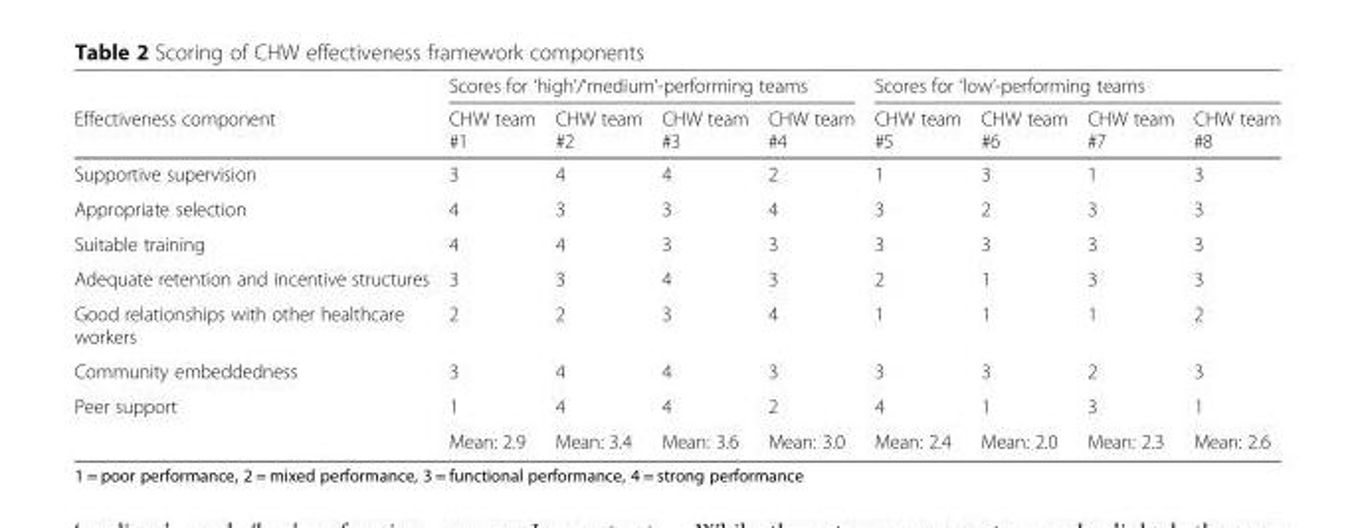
<table><thead><tr><td rowspan="2">Effectiveness component</td><td colspan="4">Scores for ‘high’/‘medium’-performing teams</td><td colspan="4">Scores for ‘low’-performing teams</td></tr><tr><td>CHW team #1</td><td>CHW team #2</td><td>CHW team #3</td><td>CHW team #4</td><td>CHW team #5</td><td>CHW team #6</td><td>CHW team #7</td><td>CHW team #8</td></tr></thead><tbody><tr><td>Supportive supervision</td><td>3</td><td>4</td><td>4</td><td>2</td><td>1</td><td>3</td><td>1</td><td>3</td></tr><tr><td>Appropriate selection</td><td>4</td><td>3</td><td>3</td><td>4</td><td>3</td><td>2</td><td>3</td><td>3</td></tr><tr><td>Suitable training</td><td>4</td><td>4</td><td>3</td><td>3</td><td>3</td><td>3</td><td>3</td><td>3</td></tr><tr><td>Adequate retention and incentive structures</td><td>3</td><td>3</td><td>4</td><td>3</td><td>2</td><td>1</td><td>3</td><td>3</td></tr><tr><td>Good relationships with other healthcare workers</td><td>2</td><td>2</td><td>3</td><td>4</td><td>1</td><td>1</td><td>1</td><td>2</td></tr><tr><td>Community embeddedness</td><td>3</td><td>4</td><td>4</td><td>3</td><td>3</td><td>3</td><td>2</td><td>3</td></tr><tr><td rowspan="2">Peer support</td><td>1</td><td>4</td><td>4</td><td>2</td><td>4</td><td>1</td><td>3</td><td>1</td></tr><tr><td>Mean: 2.9</td><td>Mean: 3.4</td><td>Mean: 3.6</td><td>Mean: 3.0</td><td>Mean: 2.4</td><td>Mean: 2.0</td><td>Mean: 2.3</td><td>Mean: 2.6</td></tr></tbody></table>